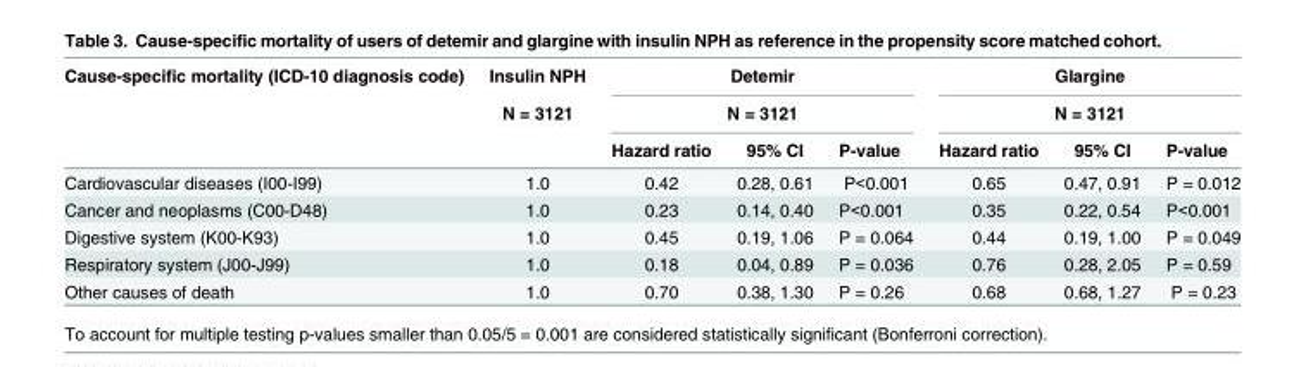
<table><thead><tr><td rowspan="3">Cause-specific mortality (ICD-10 diagnosis code)</td><td rowspan="3">Insulin NPH N = 3121</td><td rowspan="2" colspan="3">Detemir N = 3121</td><td rowspan="2" colspan="3">Glargine N = 3121</td></tr><tr></tr><tr><td>Hazard ratio</td><td>95% CI</td><td>P-value</td><td>Hazard ratio</td><td>95% CI</td><td>P-value</td></tr></thead><tbody><tr><td>Cardiovascular diseases (I00-I99)</td><td>1.0</td><td>0.42</td><td>0.28, 0.61</td><td>P&lt;0.001</td><td>0.65</td><td>0.47, 0.91</td><td>P = 0.012</td></tr><tr><td>Cancer and neoplasms (C00-D48)</td><td>1.0</td><td>0.23</td><td>0.14, 0.40</td><td>P&lt;0.001</td><td>0.35</td><td>0.22, 0.54</td><td>P&lt;0.001</td></tr><tr><td>Digestive system (K00-K93)</td><td>1.0</td><td>0.45</td><td>0.19, 1.06</td><td>P = 0.064</td><td>0.44</td><td>0.19, 1.00</td><td>P = 0.049</td></tr><tr><td>Respiratory system (J00-J99)</td><td>1.0</td><td>0.18</td><td>0.04, 0.89</td><td>P = 0.036</td><td>0.76</td><td>0.28, 2.05</td><td>P = 0.59</td></tr><tr><td>Other causes of death</td><td>1.0</td><td>0.70</td><td>0.38, 1.30</td><td>P = 0.26</td><td>0.68</td><td>0.68, 1.27</td><td>P = 0.23</td></tr></tbody></table>